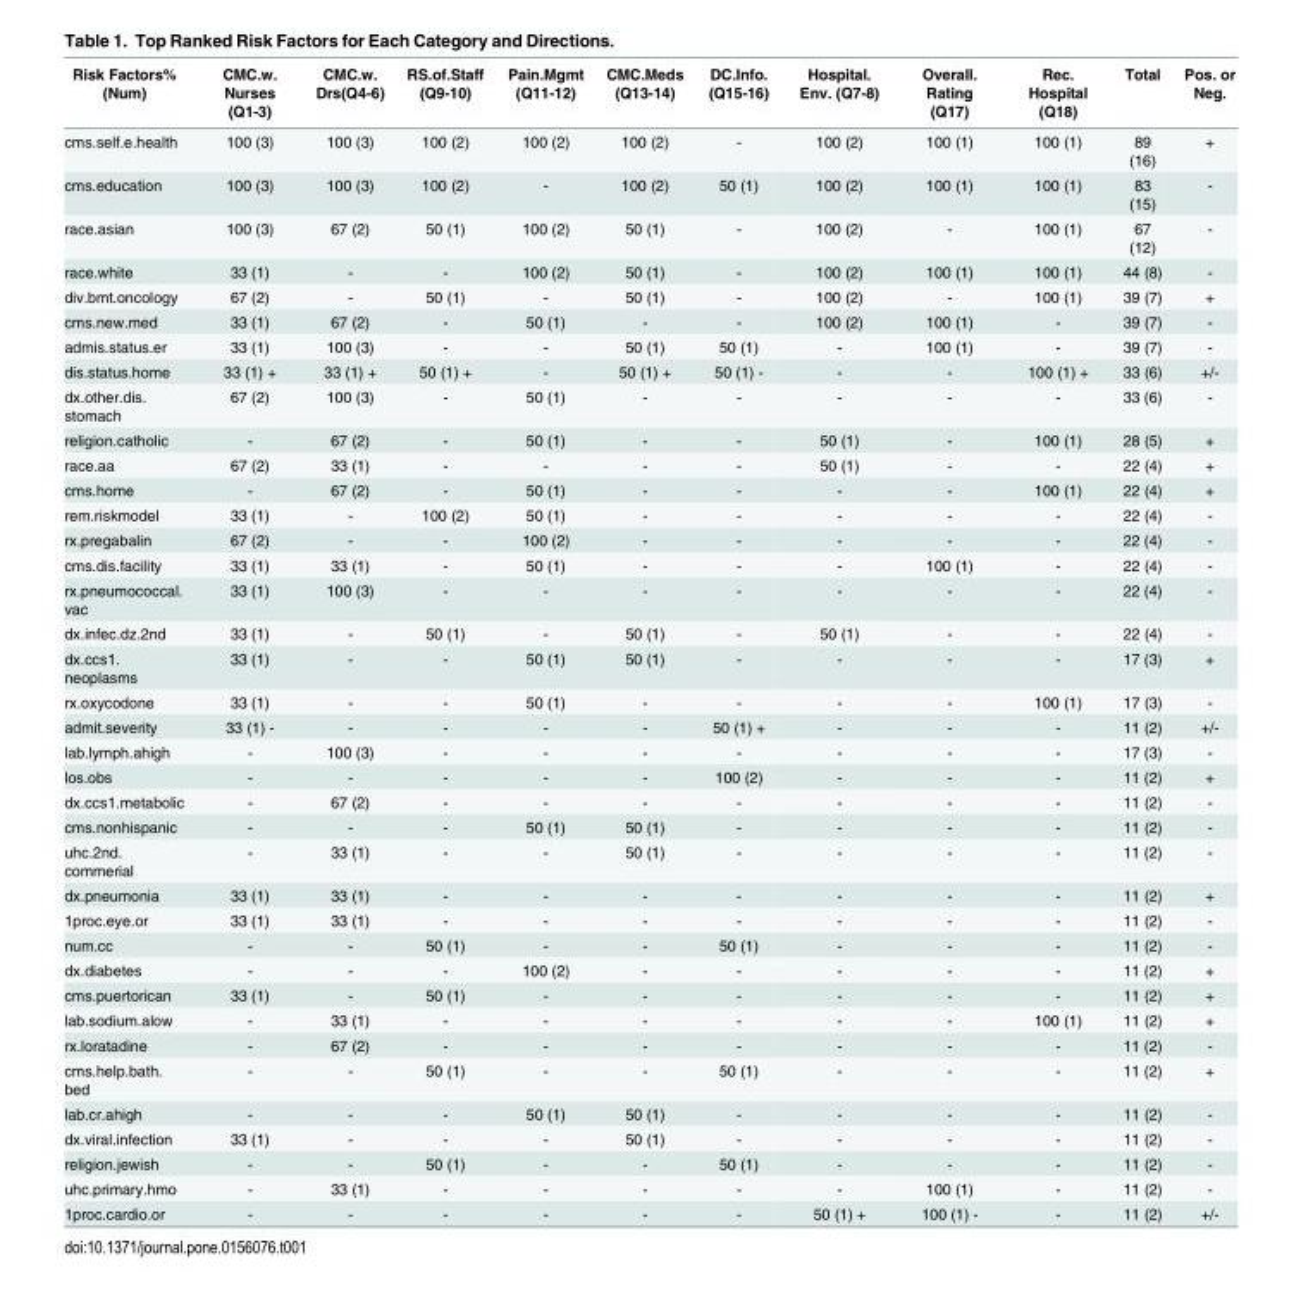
<table><thead><tr><td>Risk Factors% (Num)</td><td>CMC.w. Nurses (Q1-3)</td><td>CMC.w. Drs(Q4-6)</td><td>RS.of.Staff (Q9-10)</td><td>Pain.Mgmt (Q11-12)</td><td>CMC.Meds (Q13-14)</td><td>DC.Info. (Q15-16)</td><td>Hospital. Env. (Q7-8)</td><td>Overall. Rating (Q17)</td><td>Rec. Hospital (Q18)</td><td>Total</td><td>Pos. or Neg.</td></tr></thead><tbody><tr><td>cms.self.e.health</td><td>100 (3)</td><td>100 (3)</td><td>100 (2)</td><td>100 (2)</td><td>100 (2)</td><td>-</td><td>100 (2)</td><td>100 (1)</td><td>100 (1)</td><td>89 (16)</td><td>+</td></tr><tr><td>cms.education</td><td>100 (3)</td><td>100 (3)</td><td>100 (2)</td><td>-</td><td>100 (2)</td><td>50 (1)</td><td>100 (2)</td><td>100 (1)</td><td>100 (1)</td><td>83 (15)</td><td>-</td></tr><tr><td>race.asian</td><td>100 (3)</td><td>67 (2)</td><td>50 (1)</td><td>100 (2)</td><td>50 (1)</td><td>-</td><td>100 (2)</td><td>-</td><td>100 (1)</td><td>67 (12)</td><td>-</td></tr><tr><td>race.white</td><td>33 (1)</td><td>-</td><td>-</td><td>100 (2)</td><td>50 (1)</td><td>-</td><td>100 (2)</td><td>100 (1)</td><td>100 (1)</td><td>44 (8)</td><td>-</td></tr><tr><td>div.bmt.oncology</td><td>67 (2)</td><td>-</td><td>50 (1)</td><td>-</td><td>50 (1)</td><td>-</td><td>100 (2)</td><td>-</td><td>100 (1)</td><td>39 (7)</td><td>+</td></tr><tr><td>cms.new.med</td><td>33 (1)</td><td>67 (2)</td><td>-</td><td>50 (1)</td><td>-</td><td>-</td><td>100 (2)</td><td>100 (1)</td><td>-</td><td>39 (7)</td><td>-</td></tr><tr><td>admis.status.er</td><td>33 (1)</td><td>100 (3)</td><td>-</td><td>-</td><td>50 (1)</td><td>50 (1)</td><td>-</td><td>100 (1)</td><td>-</td><td>39 (7)</td><td>-</td></tr><tr><td>dis.status.home</td><td>33 (1) +</td><td>33 (1) +</td><td>50 (1) +</td><td>-</td><td>50 (1) +</td><td>50 (1) -</td><td>-</td><td>-</td><td>100 (1) +</td><td>33 (6)</td><td>+/-</td></tr><tr><td>dx.other.dis. stomach</td><td>67 (2)</td><td>100 (3)</td><td>-</td><td>50 (1)</td><td>-</td><td>-</td><td>-</td><td>-</td><td>-</td><td>33 (6)</td><td>-</td></tr><tr><td>religion.catholic</td><td>-</td><td>67 (2)</td><td>-</td><td>50 (1)</td><td>-</td><td>-</td><td>50 (1)</td><td>-</td><td>100 (1)</td><td>28 (5)</td><td>+</td></tr><tr><td>race.aa</td><td>67 (2)</td><td>33 (1)</td><td>-</td><td>-</td><td>-</td><td>-</td><td>50 (1)</td><td>-</td><td>-</td><td>22 (4)</td><td>+</td></tr><tr><td>cms.home</td><td>-</td><td>67 (2)</td><td>-</td><td>50 (1)</td><td>-</td><td>-</td><td>-</td><td>-</td><td>100 (1)</td><td>22 (4)</td><td>+</td></tr><tr><td>rem.riskmodel</td><td>33 (1)</td><td>-</td><td>100 (2)</td><td>50 (1)</td><td>-</td><td>-</td><td>-</td><td>-</td><td>-</td><td>22 (4)</td><td>-</td></tr><tr><td>rx.pregabalin</td><td>67 (2)</td><td>-</td><td>-</td><td>100 (2)</td><td>-</td><td>-</td><td>-</td><td>-</td><td>-</td><td>22 (4)</td><td>-</td></tr><tr><td>cms.dis.facility</td><td>33 (1)</td><td>33 (1)</td><td>-</td><td>50 (1)</td><td>-</td><td>-</td><td>-</td><td>100 (1)</td><td>-</td><td>22 (4)</td><td>-</td></tr><tr><td>rx.pneumococcal. vac</td><td>33 (1)</td><td>100 (3)</td><td>-</td><td>-</td><td>-</td><td>-</td><td>-</td><td>-</td><td>-</td><td>22 (4)</td><td>-</td></tr><tr><td>dx.infec.dz.2nd</td><td>33 (1)</td><td>-</td><td>50 (1)</td><td>-</td><td>50 (1)</td><td>-</td><td>50 (1)</td><td>-</td><td>-</td><td>22 (4)</td><td>-</td></tr><tr><td>dx.ccs1. neoplasms</td><td>33 (1)</td><td>-</td><td>-</td><td>50 (1)</td><td>50 (1)</td><td>-</td><td>-</td><td>-</td><td>-</td><td>17 (3)</td><td>+</td></tr><tr><td>rx.oxycodone</td><td>33 (1)</td><td>-</td><td>-</td><td>50 (1)</td><td>-</td><td>-</td><td>-</td><td>-</td><td>100 (1)</td><td>17 (3)</td><td>-</td></tr><tr><td>admit.severity</td><td>33 (1) -</td><td>-</td><td>-</td><td>-</td><td>-</td><td>50 (1) +</td><td>-</td><td>-</td><td>-</td><td>11 (2)</td><td>+/-</td></tr><tr><td>lab.lymph.ahigh</td><td>-</td><td>100 (3)</td><td>-</td><td>-</td><td>-</td><td>-</td><td>-</td><td>-</td><td>-</td><td>17 (3)</td><td>-</td></tr><tr><td>los.obs</td><td>-</td><td>-</td><td>-</td><td>-</td><td>-</td><td>100 (2)</td><td>-</td><td>-</td><td>-</td><td>11 (2)</td><td>+</td></tr><tr><td>dx.ccs1.metabolic</td><td>-</td><td>67 (2)</td><td>-</td><td>-</td><td>-</td><td>-</td><td>-</td><td>-</td><td>-</td><td>11 (2)</td><td>-</td></tr><tr><td>cms.nonhispanic</td><td>-</td><td>-</td><td>-</td><td>50 (1)</td><td>50 (1)</td><td>-</td><td>-</td><td>-</td><td>-</td><td>11 (2)</td><td>-</td></tr><tr><td>uhc.2nd. commerial</td><td>-</td><td>33 (1)</td><td>-</td><td>-</td><td>50 (1)</td><td>-</td><td>-</td><td>-</td><td>-</td><td>11 (2)</td><td>-</td></tr><tr><td>dx.pneumonia</td><td>33 (1)</td><td>33 (1)</td><td>-</td><td>-</td><td>-</td><td>-</td><td>-</td><td>-</td><td>-</td><td>11 (2)</td><td>+</td></tr><tr><td>1proc.eye.or</td><td>33 (1)</td><td>33 (1)</td><td>-</td><td>-</td><td>-</td><td>-</td><td>-</td><td>-</td><td>-</td><td>11 (2)</td><td>-</td></tr><tr><td>num.cc</td><td>-</td><td>-</td><td>50 (1)</td><td>-</td><td>-</td><td>50 (1)</td><td>-</td><td>-</td><td>-</td><td>11 (2)</td><td>-</td></tr><tr><td>dx.diabetes</td><td>-</td><td>-</td><td>-</td><td>100 (2)</td><td>-</td><td>-</td><td>-</td><td>-</td><td>-</td><td>11 (2)</td><td>+</td></tr><tr><td>cms.puertorican</td><td>33 (1)</td><td>-</td><td>50 (1)</td><td>-</td><td>-</td><td>-</td><td>-</td><td>-</td><td>-</td><td>11 (2)</td><td>+</td></tr><tr><td>lab.sodium.alow</td><td>-</td><td>33 (1)</td><td>-</td><td>-</td><td>-</td><td>-</td><td>-</td><td>-</td><td>100 (1)</td><td>11 (2)</td><td>+</td></tr><tr><td>rx.loratadine</td><td>-</td><td>67 (2)</td><td>-</td><td>-</td><td>-</td><td>-</td><td>-</td><td>-</td><td>-</td><td>11 (2)</td><td>-</td></tr><tr><td>cms.help.bath. bed</td><td>-</td><td>-</td><td>50 (1)</td><td>-</td><td>-</td><td>50 (1)</td><td>-</td><td>-</td><td>-</td><td>11 (2)</td><td>+</td></tr><tr><td>lab.cr.ahigh</td><td>-</td><td>-</td><td>-</td><td>50 (1)</td><td>50 (1)</td><td>-</td><td>-</td><td>-</td><td>-</td><td>11 (2)</td><td>-</td></tr><tr><td>dx.viral.infection</td><td>33 (1)</td><td>-</td><td>-</td><td>-</td><td>50 (1)</td><td>-</td><td>-</td><td>-</td><td>-</td><td>11 (2)</td><td>-</td></tr><tr><td>religion.jewish</td><td>-</td><td>-</td><td>50 (1)</td><td>-</td><td>-</td><td>50 (1)</td><td>-</td><td>-</td><td>-</td><td>11 (2)</td><td>-</td></tr><tr><td>uhc.primary.hmo</td><td>-</td><td>33 (1)</td><td>-</td><td>-</td><td>-</td><td>-</td><td>-</td><td>100 (1)</td><td>-</td><td>11 (2)</td><td>-</td></tr><tr><td>1proc.cardio.or</td><td>-</td><td>-</td><td>-</td><td>-</td><td>-</td><td>-</td><td>50 (1) +</td><td>100 (1) -</td><td>-</td><td>11 (2)</td><td>+/-</td></tr></tbody></table>